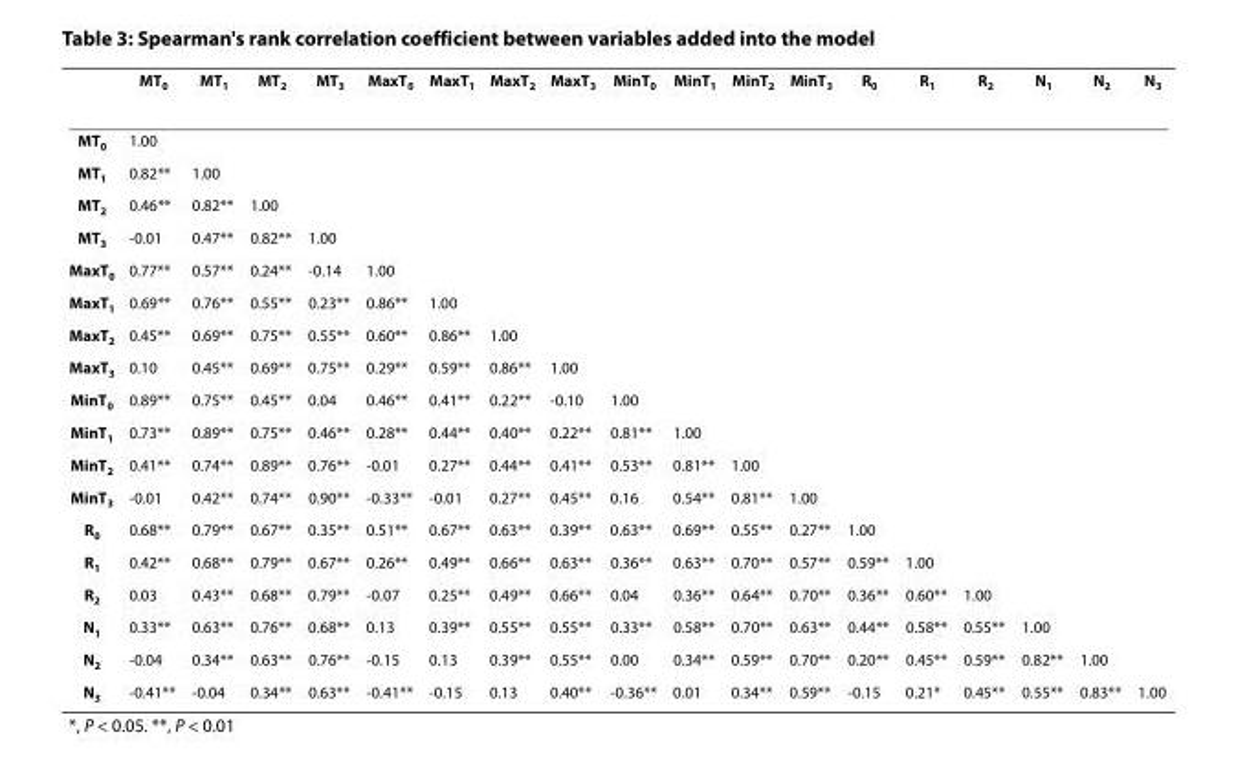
<table><thead><tr><td></td><td>MT<sub>0</sub></td><td>MT<sub>1</sub></td><td>MT<sub>2</sub></td><td>MT<sub>3</sub></td><td>MaxT<sub>0</sub></td><td>MaxT<sub>1</sub></td><td>MaxT<sub>2</sub></td><td>MaxT<sub>3</sub></td><td>MinT<sub>0</sub></td><td>MinT<sub>1</sub></td><td>MinT<sub>2</sub></td><td>MinT<sub>3</sub></td><td>R<sub>0</sub></td><td>R<sub>1</sub></td><td>R<sub>2</sub></td><td>N<sub>1</sub></td><td>N<sub>2</sub></td><td>N<sub>3</sub></td></tr></thead><tbody><tr><td>MT<sub>0</sub></td><td>1.00</td><td></td><td></td><td></td><td></td><td></td><td></td><td></td><td></td><td></td><td></td><td></td><td></td><td></td><td></td><td></td><td></td><td></td></tr><tr><td>MT<sub>1</sub></td><td>0.82**</td><td>1.00</td><td></td><td></td><td></td><td></td><td></td><td></td><td></td><td></td><td></td><td></td><td></td><td></td><td></td><td></td><td></td><td></td></tr><tr><td>MT<sub>2</sub></td><td>0.46**</td><td>0.82**</td><td>1.00</td><td></td><td></td><td></td><td></td><td></td><td></td><td></td><td></td><td></td><td></td><td></td><td></td><td></td><td></td><td></td></tr><tr><td>MT<sub>3</sub></td><td>-0.01</td><td>0.47**</td><td>0.82**</td><td>1.00</td><td></td><td></td><td></td><td></td><td></td><td></td><td></td><td></td><td></td><td></td><td></td><td></td><td></td><td></td></tr><tr><td>MaxT<sub>0</sub></td><td>0.77**</td><td>0.57**</td><td>0.24**</td><td>-0.14</td><td>1.00</td><td></td><td></td><td></td><td></td><td></td><td></td><td></td><td></td><td></td><td></td><td></td><td></td><td></td></tr><tr><td>MaxT<sub>1</sub></td><td>0.69**</td><td>0.76**</td><td>0.55**</td><td>0.23**</td><td>0.86**</td><td>1.00</td><td></td><td></td><td></td><td></td><td></td><td></td><td></td><td></td><td></td><td></td><td></td><td></td></tr><tr><td>MaxT<sub>2</sub></td><td>0.45**</td><td>0.69**</td><td>0.75**</td><td>0.55**</td><td>0.60**</td><td>0.86**</td><td>1.00</td><td></td><td></td><td></td><td></td><td></td><td></td><td></td><td></td><td></td><td></td><td></td></tr><tr><td>MaxT<sub>3</sub></td><td>0.10</td><td>0.45**</td><td>0.69**</td><td>0.75**</td><td>0.29**</td><td>0.59**</td><td>0.86**</td><td>1.00</td><td></td><td></td><td></td><td></td><td></td><td></td><td></td><td></td><td></td><td></td></tr><tr><td>MinT<sub>0</sub></td><td>0.89**</td><td>0.75**</td><td>0.45**</td><td>0.04</td><td>0.46**</td><td>0.41**</td><td>0.22**</td><td>-0.10</td><td>1.00</td><td></td><td></td><td></td><td></td><td></td><td></td><td></td><td></td><td></td></tr><tr><td>MinT<sub>1</sub></td><td>0.73**</td><td>0.89**</td><td>0.75**</td><td>0.46**</td><td>0.28**</td><td>0.44**</td><td>0.40**</td><td>0.22**</td><td>0.81**</td><td>1.00</td><td></td><td></td><td></td><td></td><td></td><td></td><td></td><td></td></tr><tr><td>MinT<sub>2</sub></td><td>0.41**</td><td>0.74**</td><td>0.89**</td><td>0.76**</td><td>-0.01</td><td>0.27**</td><td>0.44**</td><td>0.41**</td><td>0.53**</td><td>0.81**</td><td>1.00</td><td></td><td></td><td></td><td></td><td></td><td></td><td></td></tr><tr><td>MinT<sub>3</sub></td><td>-0.01</td><td>0.42**</td><td>0.74**</td><td>0.90**</td><td>-0.33**</td><td>-0.01</td><td>0.27**</td><td>0.45**</td><td>0.16</td><td>0.54**</td><td>0.81**</td><td>1.00</td><td></td><td></td><td></td><td></td><td></td><td></td></tr><tr><td>R<sub>0</sub></td><td>0.68**</td><td>0.79**</td><td>0.67**</td><td>0.35**</td><td>0.51**</td><td>0.67**</td><td>0.63**</td><td>0.39**</td><td>0.63**</td><td>0.69**</td><td>0.55**</td><td>0.27**</td><td>1.00</td><td></td><td></td><td></td><td></td><td></td></tr><tr><td>R<sub>1</sub></td><td>0.42**</td><td>0.68**</td><td>0.79**</td><td>0.67**</td><td>0.26**</td><td>0.49**</td><td>0.66**</td><td>0.63**</td><td>0.36**</td><td>0.63**</td><td>0.70**</td><td>0.57**</td><td>0.59**</td><td>1.00</td><td></td><td></td><td></td><td></td></tr><tr><td>R<sub>2</sub></td><td>0.03</td><td>0.43**</td><td>0.68**</td><td>0.79**</td><td>-0.07</td><td>0.25**</td><td>0.49**</td><td>0.66**</td><td>0.04</td><td>0.36**</td><td>0.64**</td><td>0.70**</td><td>0.36**</td><td>0.60**</td><td>1.00</td><td></td><td></td><td></td></tr><tr><td>N<sub>1</sub></td><td>0.33**</td><td>0.63**</td><td>0.76**</td><td>0.68**</td><td>0.13</td><td>0.39**</td><td>0.55**</td><td>0.55**</td><td>0.33**</td><td>0.58**</td><td>0.70**</td><td>0.63**</td><td>0.44**</td><td>0.58**</td><td>0.55**</td><td>1.00</td><td></td><td></td></tr><tr><td>N<sub>2</sub></td><td>-0.04</td><td>0.34**</td><td>0.63**</td><td>0.76**</td><td>-0.15</td><td>0.13</td><td>0.39**</td><td>0.55**</td><td>0.00</td><td>0.34**</td><td>0.59**</td><td>0.70**</td><td>0.20**</td><td>0.45**</td><td>0.59**</td><td>0.82**</td><td>1.00</td><td></td></tr><tr><td>N<sub>3</sub></td><td>-0.41**</td><td>-0.04</td><td>0.34**</td><td>0.63**</td><td>-0.41**</td><td>-0.15</td><td>0.13</td><td>0.40**</td><td>-0.36**</td><td>0.01</td><td>0.34**</td><td>0.59**</td><td>-0.15</td><td>0.21*</td><td>0.45**</td><td>0.55**</td><td>0.83**</td><td>1.00</td></tr></tbody></table>